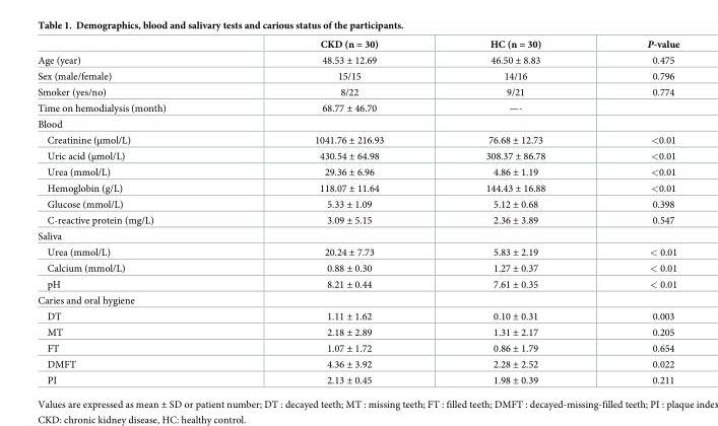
<table><thead><tr><td></td><td>CKD (n = 30)</td><td>HC (n = 30)</td><td>P-value</td></tr></thead><tbody><tr><td>Age (year)</td><td>48.53 ± 12.69</td><td>46.50 ± 8.83</td><td>0.475</td></tr><tr><td>Sex (male/female)</td><td>15/15</td><td>14/16</td><td>0.796</td></tr><tr><td>Smoker (yes/no)</td><td>8/22</td><td>9/21</td><td>0.774</td></tr><tr><td>Time on hemodialysis (month)</td><td>68.77 ± 46.70</td><td>—-</td><td></td></tr><tr><td colspan="4">Blood</td></tr><tr><td>Creatinine (μmol/L)</td><td>1041.76 ± 216.93</td><td>76.68 ± 12.73</td><td>&lt;0.01</td></tr><tr><td>Uric acid (μmol/L)</td><td>430.54 ± 64.98</td><td>308.37 ± 86.78</td><td>&lt;0.01</td></tr><tr><td>Urea (mmol/L)</td><td>29.36 ± 6.96</td><td>4.86 ± 1.19</td><td>&lt;0.01</td></tr><tr><td>Hemoglobin (g/L)</td><td>118.07 ± 11.64</td><td>144.43 ± 16.88</td><td>&lt;0.01</td></tr><tr><td>Glucose (mmol/L)</td><td>5.33 ± 1.09</td><td>5.12 ± 0.68</td><td>0.398</td></tr><tr><td>C-reactive protein (mg/L)</td><td>3.09 ± 5.15</td><td>2.36 ± 3.89</td><td>0.547</td></tr><tr><td colspan="4">Saliva</td></tr><tr><td>Urea (mmol/L)</td><td>20.24 ± 7.73</td><td>5.83 ± 2.19</td><td>&lt; 0.01</td></tr><tr><td>Calcium (mmol/L)</td><td>0.88 ± 0.30</td><td>1.27 ± 0.37</td><td>&lt; 0.01</td></tr><tr><td>pH</td><td>8.21 ± 0.44</td><td>7.61 ± 0.35</td><td>&lt; 0.01</td></tr><tr><td colspan="4">Caries and oral hygiene</td></tr><tr><td>DT</td><td>1.11 ± 1.62</td><td>0.10 ± 0.31</td><td>0.003</td></tr><tr><td>MT</td><td>2.18 ± 2.89</td><td>1.31 ± 2.17</td><td>0.205</td></tr><tr><td>FT</td><td>1.07 ± 1.72</td><td>0.86 ± 1.79</td><td>0.654</td></tr><tr><td>DMFT</td><td>4.36 ± 3.92</td><td>2.28 ± 2.52</td><td>0.022</td></tr><tr><td>PI</td><td>2.13 ± 0.45</td><td>1.98 ± 0.39</td><td>0.211</td></tr></tbody></table>